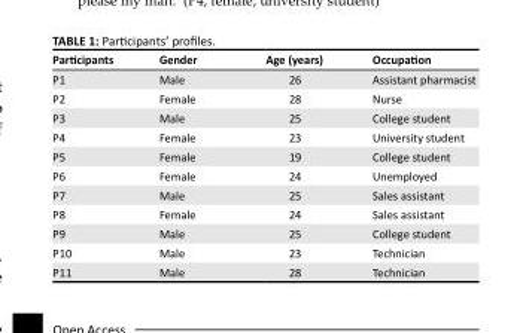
<table><thead><tr><td>Participants</td><td>Gender</td><td>Age (years)</td><td>Occupation</td></tr></thead><tbody><tr><td>P1</td><td>Male</td><td>26</td><td>Assistant pharmacist</td></tr><tr><td>P2</td><td>Female</td><td>28</td><td>Nurse</td></tr><tr><td>P3</td><td>Male</td><td>25</td><td>College student</td></tr><tr><td>P4</td><td>Female</td><td>23</td><td>University student</td></tr><tr><td>P5</td><td>Female</td><td>19</td><td>College student</td></tr><tr><td>P6</td><td>Female</td><td>24</td><td>Unemployed</td></tr><tr><td>P7</td><td>Male</td><td>25</td><td>Sales assistant</td></tr><tr><td>P8</td><td>Female</td><td>24</td><td>Sales assistant</td></tr><tr><td>P9</td><td>Male</td><td>25</td><td>College student</td></tr><tr><td>P10</td><td>Male</td><td>23</td><td>Technician</td></tr><tr><td>P11</td><td>Male</td><td>28</td><td>Technician</td></tr></tbody></table>